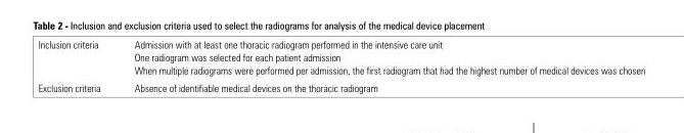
<table><tbody><tr><td>Inclusion criteria</td><td>Admission with at least one thoracic radiogram performed in the intensive care unit One radiogram was selected for each patient admission When multiple radiograms were performed per admission, the first radiogram that had the highest number of medical devices was chosen</td></tr><tr><td>Exclusion criteria</td><td>Absence of identifiable medical devices on the thoracic radiogram</td></tr></tbody></table>